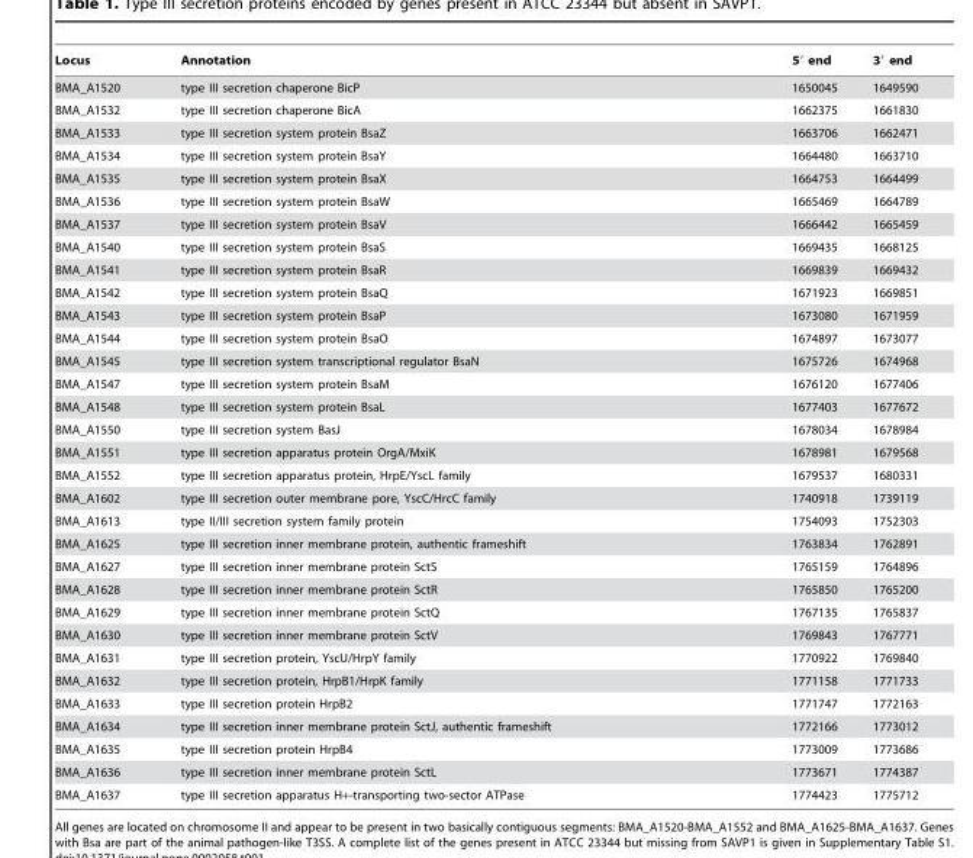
<table><thead><tr><td>Locus</td><td>Annotation</td><td>5′ end</td><td>3′ end</td></tr></thead><tbody><tr><td>BMA_A1520</td><td>type III secretion chaperone BicP</td><td>1650045</td><td>1649590</td></tr><tr><td>BMA_A1532</td><td>type III secretion chaperone BicA</td><td>1662375</td><td>1661830</td></tr><tr><td>BMA_A1533</td><td>type III secretion system protein BsaZ</td><td>1663706</td><td>1662471</td></tr><tr><td>BMA_A1534</td><td>type III secretion system protein BsaY</td><td>1664480</td><td>1663710</td></tr><tr><td>BMA_A1535</td><td>type III secretion system protein BsaX</td><td>1664753</td><td>1664499</td></tr><tr><td>BMA_A1536</td><td>type III secretion system protein BsaW</td><td>1665469</td><td>1664789</td></tr><tr><td>BMA_A1537</td><td>type III secretion system protein BsaV</td><td>1666442</td><td>1665459</td></tr><tr><td>BMA_A1540</td><td>type III secretion system protein BsaS</td><td>1669435</td><td>1668125</td></tr><tr><td>BMA_A1541</td><td>type III secretion system protein BsaR</td><td>1669839</td><td>1669432</td></tr><tr><td>BMA_A1542</td><td>type III secretion system protein BsaQ</td><td>1671923</td><td>1669851</td></tr><tr><td>BMA_A1543</td><td>type III secretion system protein BsaP</td><td>1673080</td><td>1671959</td></tr><tr><td>BMA_A1544</td><td>type III secretion system protein BsaO</td><td>1674897</td><td>1673077</td></tr><tr><td>BMA_A1545</td><td>type III secretion system transcriptional regulator BsaN</td><td>1675726</td><td>1674968</td></tr><tr><td>BMA_A1547</td><td>type III secretion system protein BsaM</td><td>1676120</td><td>1677406</td></tr><tr><td>BMA_A1548</td><td>type III secretion system protein BsaL</td><td>1677403</td><td>1677672</td></tr><tr><td>BMA_A1550</td><td>type III secretion system BasJ</td><td>1678034</td><td>1678984</td></tr><tr><td>BMA_A1551</td><td>type III secretion apparatus protein OrgA/MxiK</td><td>1678981</td><td>1679568</td></tr><tr><td>BMA_A1552</td><td>type III secretion apparatus protein, HrpE/YscL family</td><td>1679537</td><td>1680331</td></tr><tr><td>BMA_A1602</td><td>type III secretion outer membrane pore, YscC/HrcC family</td><td>1740918</td><td>1739119</td></tr><tr><td>BMA_A1613</td><td>type II/III secretion system family protein</td><td>1754093</td><td>1752303</td></tr><tr><td>BMA_A1625</td><td>type III secretion inner membrane protein, authentic frameshift</td><td>1763834</td><td>1762891</td></tr><tr><td>BMA_A1627</td><td>type III secretion inner membrane protein SctS</td><td>1765159</td><td>1764896</td></tr><tr><td>BMA_A1628</td><td>type III secretion inner membrane protein SctR</td><td>1765850</td><td>1765200</td></tr><tr><td>BMA_A1629</td><td>type III secretion inner membrane protein SctQ</td><td>1767135</td><td>1765837</td></tr><tr><td>BMA_A1630</td><td>type III secretion inner membrane protein SctV</td><td>1769843</td><td>1767771</td></tr><tr><td>BMA_A1631</td><td>type III secretion protein, YscU/HrpY family</td><td>1770922</td><td>1769840</td></tr><tr><td>BMA_A1632</td><td>type III secretion protein, HrpB1/HrpK family</td><td>1771158</td><td>1771733</td></tr><tr><td>BMA_A1633</td><td>type III secretion protein HrpB2</td><td>1771747</td><td>1772163</td></tr><tr><td>BMA_A1634</td><td>type III secretion inner membrane protein SctJ, authentic frameshift</td><td>1772166</td><td>1773012</td></tr><tr><td>BMA_A1635</td><td>type III secretion protein HrpB4</td><td>1773009</td><td>1773686</td></tr><tr><td>BMA_A1636</td><td>type III secretion inner membrane protein SctL</td><td>1773671</td><td>1774387</td></tr><tr><td>BMA_A1637</td><td>type III secretion apparatus H+-transporting two-sector ATPase</td><td>1774423</td><td>1775712</td></tr></tbody></table>